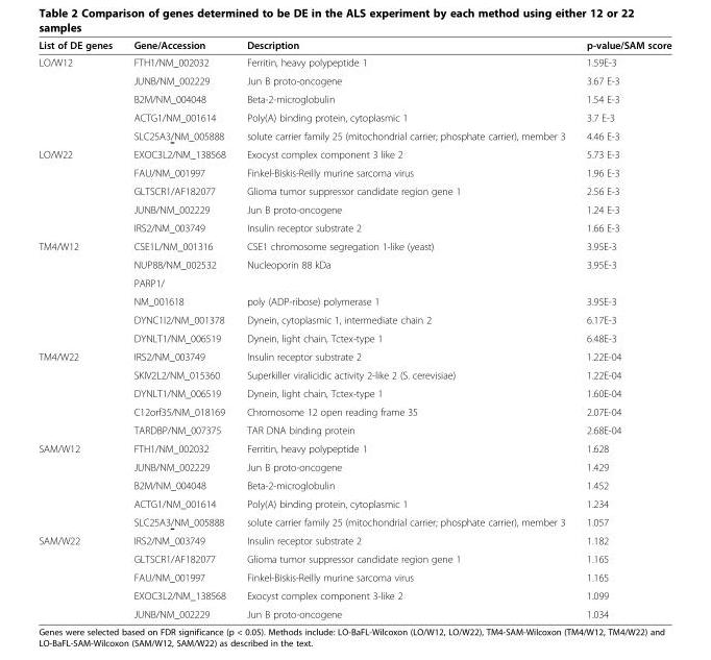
<table><thead><tr><td>List of DE genes</td><td>Gene/Accession</td><td>Description</td><td>p-value/SAM score</td></tr></thead><tbody><tr><td rowspan="5">LO/W12</td><td>FTH1/NM_002032</td><td>Ferritin, heavy polypeptide 1</td><td>1.59E-3</td></tr><tr><td>JUNB/NM_002229</td><td>Jun B proto-oncogene</td><td>3.67 E-3</td></tr><tr><td>B2M/NM_004048</td><td>Beta-2-microglobulin</td><td>1.54 E-3</td></tr><tr><td>ACTG1/NM_001614</td><td>Poly(A) binding protein, cytoplasmic 1</td><td>3.7 E-3</td></tr><tr><td>SLC25A3/NM_005888</td><td>solute carrier family 25 (mitochondrial carrier; phosphate carrier), member 3</td><td>4.46 E-3</td></tr><tr><td rowspan="5">LO/W22</td><td>EXOC3L2/NM_138568</td><td>Exocyst complex component 3 like 2</td><td>5.73 E-3</td></tr><tr><td>FAU/NM_001997</td><td>Finkel-Biskis-Reilly murine sarcoma virus</td><td>1.96 E-3</td></tr><tr><td>GLTSCR1/AF182077</td><td>Glioma tumor suppressor candidate region gene 1</td><td>2.56 E-3</td></tr><tr><td>JUNB/NM_002229</td><td>Jun B proto-oncogene</td><td>1.24 E-3</td></tr><tr><td>IRS2/NM_003749</td><td>Insulin receptor substrate 2</td><td>1.66 E-3</td></tr><tr><td rowspan="6">TM4/W12</td><td>CSE1L/NM_001316</td><td>CSE1 chromosome segregation 1-like (yeast)</td><td>3.95E-3</td></tr><tr><td>NUP88/NM_002532</td><td>Nucleoporin 88 kDa</td><td>3.95E-3</td></tr><tr><td>PARP1/</td><td></td><td></td></tr><tr><td>NM_001618</td><td>poly (ADP-ribose) polymerase 1</td><td>3.95E-3</td></tr><tr><td>DYNC1I2/NM_001378</td><td>Dynein, cytoplasmic 1, intermediate chain 2</td><td>6.17E-3</td></tr><tr><td>DYNLT1/NM_006519</td><td>Dynein, light chain, Tctex-type 1</td><td>6.48E-3</td></tr><tr><td rowspan="5">TM4/W22</td><td>IRS2/NM_003749</td><td>Insulin receptor substrate 2</td><td>1.22E-04</td></tr><tr><td>SKIV2L2/NM_015360</td><td>Superkiller viralicidic activity 2-like 2 (S. cerevisiae)</td><td>1.22E-04</td></tr><tr><td>DYNLT1/NM_006519</td><td>Dynein, light chain, Tctex-type 1</td><td>1.60E-04</td></tr><tr><td>C12orf35/NM_018169</td><td>Chromosome 12 open reading frame 35</td><td>2.07E-04</td></tr><tr><td>TARDBP/NM_007375</td><td>TAR DNA binding protein</td><td>2.68E-04</td></tr><tr><td rowspan="5">SAM/W12</td><td>FTH1/NM_002032</td><td>Ferritin, heavy polypeptide 1</td><td>1.628</td></tr><tr><td>JUNB/NM_002229</td><td>Jun B proto-oncogene</td><td>1.429</td></tr><tr><td>B2M/NM_004048</td><td>Beta-2-microglobulin</td><td>1.452</td></tr><tr><td>ACTG1/NM_001614</td><td>Poly(A) binding protein, cytoplasmic 1</td><td>1.234</td></tr><tr><td>SLC25A3/NM_005888</td><td>solute carrier family 25 (mitochondrial carrier; phosphate carrier), member 3</td><td>1.057</td></tr><tr><td rowspan="5">SAM/W22</td><td>IRS2/NM_003749</td><td>Insulin receptor substrate 2</td><td>1.182</td></tr><tr><td>GLTSCR1/AF182077</td><td>Glioma tumor suppressor candidate region gene 1</td><td>1.165</td></tr><tr><td>FAU/NM_001997</td><td>Finkel-Biskis-Reilly murine sarcoma virus</td><td>1.165</td></tr><tr><td>EXOC3L2/NM_138568</td><td>Exocyst complex component 3-like 2</td><td>1.099</td></tr><tr><td>JUNB/NM_002229</td><td>Jun B proto-oncogene</td><td>1.034</td></tr></tbody></table>